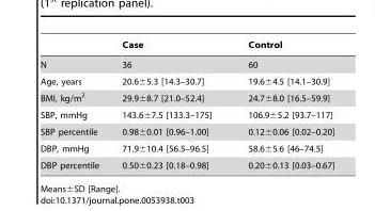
<table><thead><tr><td></td><td>Case</td><td>Control</td></tr></thead><tbody><tr><td>N</td><td>36</td><td>60</td></tr><tr><td>Age, years</td><td>20.6±5.3 [14.3–30.7]</td><td>19.6±4.5 [14.1–30.9]</td></tr><tr><td>BMI, kg/m<sup>2</sup></td><td>29.9±8.7 [21.0–52.4]</td><td>24.7±8.0 [16.5–59.9]</td></tr><tr><td>SBP, mmHg</td><td>143.6±7.5 [133.3–175]</td><td>106.9±5.2 [93.7–117]</td></tr><tr><td>SBP percentile</td><td>0.98±0.01 [0.96–1.00]</td><td>0.12±0.06 [0.02–0.20]</td></tr><tr><td>DBP, mmHg</td><td>71.9±10.4 [56.5–96.5]</td><td>58.6±5.6 [46–74.5]</td></tr><tr><td>DBP percentile</td><td>0.50±0.23 [0.18–0.98]</td><td>0.20±0.13 [0.03–0.67]</td></tr></tbody></table>